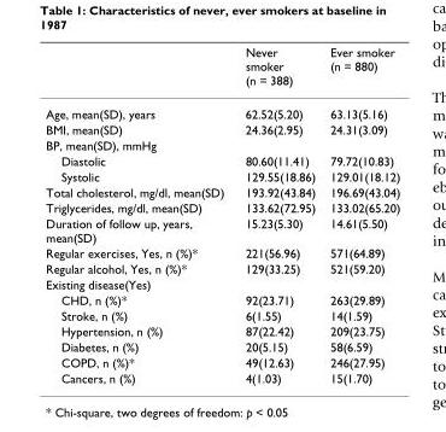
<table><thead><tr><td></td><td>Never smoker (n = 388)</td><td>Ever smoker (n = 880)</td></tr></thead><tbody><tr><td>Age, mean(SD), years</td><td>62.52(5.20)</td><td>63.13(5.16)</td></tr><tr><td>BMI, mean(SD)</td><td>24.36(2.95)</td><td>24.31(3.09)</td></tr><tr><td colspan="3">BP, mean(SD), mmHg</td></tr><tr><td>Diastolic</td><td>80.60(11.41)</td><td>79.72(10.83)</td></tr><tr><td>Systolic</td><td>129.55(18.86)</td><td>129.01(18.12)</td></tr><tr><td>Total cholesterol, mg/dl, mean(SD)</td><td>193.92(43.84)</td><td>196.69(43.04)</td></tr><tr><td>Triglycerides, mg/dl, mean(SD)</td><td>133.62(72.95)</td><td>133.02(65.20)</td></tr><tr><td>Duration of follow up, years, mean(SD)</td><td>15.23(5.30)</td><td>14.61(5.50)</td></tr><tr><td>Regular exercises, Yes, n (%)*</td><td>221(56.96)</td><td>571(64.89)</td></tr><tr><td>Regular alcohol, Yes, n (%)*</td><td>129(33.25)</td><td>521(59.20)</td></tr><tr><td colspan="3">Existing disease(Yes)</td></tr><tr><td>CHD, n (%)*</td><td>92(23.71)</td><td>263(29.89)</td></tr><tr><td>Stroke, n (%)</td><td>6(1.55)</td><td>14(1.59)</td></tr><tr><td>Hypertension, n (%)</td><td>87(22.42)</td><td>209(23.75)</td></tr><tr><td>Diabetes, n (%)</td><td>20(5.15)</td><td>58(6.59)</td></tr><tr><td>COPD, n (%)*</td><td>49(12.63)</td><td>246(27.95)</td></tr><tr><td>Cancers, n (%)</td><td>4(1.03)</td><td>15(1.70)</td></tr></tbody></table>